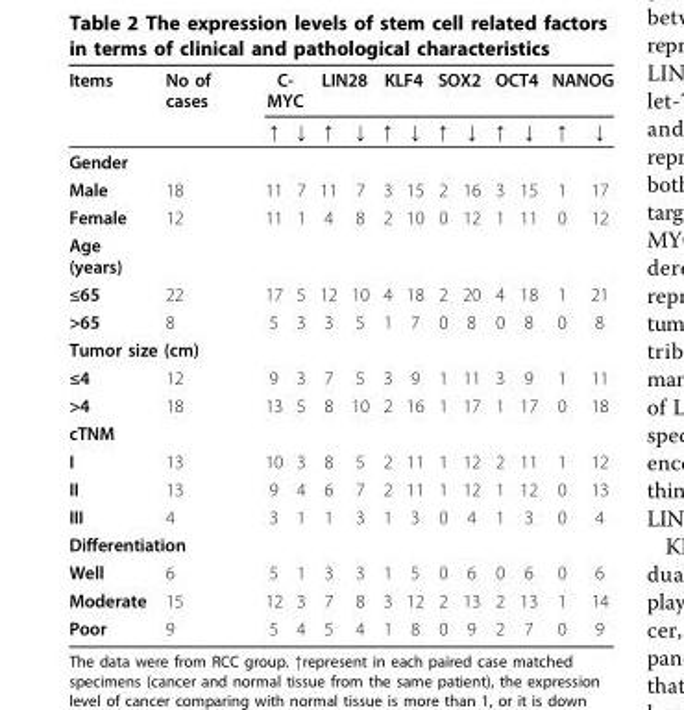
<table><tbody><tr><td rowspan="2">Items</td><td>No of cases</td><td colspan="2">C- MYC</td><td colspan="2">LIN28</td><td colspan="2">KLF4</td><td colspan="2">SOX2</td><td colspan="2">OCT4</td><td colspan="2">NANOG</td></tr><tr><td></td><td>↑</td><td>↓</td><td>↑</td><td>↓</td><td>↑</td><td>↓</td><td>↑</td><td>↓</td><td>↑</td><td>↓</td><td>↑</td><td>↓</td></tr><tr><td colspan="14">Gender</td></tr><tr><td>Male</td><td>18</td><td>11</td><td>7</td><td>11</td><td>7</td><td>3</td><td>15</td><td>2</td><td>16</td><td>3</td><td>15</td><td>1</td><td>17</td></tr><tr><td>Female</td><td>12</td><td>11</td><td>1</td><td>4</td><td>8</td><td>2</td><td>10</td><td>0</td><td>12</td><td>1</td><td>11</td><td>0</td><td>12</td></tr><tr><td colspan="14">Age (years)</td></tr><tr><td>≤65</td><td>22</td><td>17</td><td>5</td><td>12</td><td>10</td><td>4</td><td>18</td><td>2</td><td>20</td><td>4</td><td>18</td><td>1</td><td>21</td></tr><tr><td>&gt;65</td><td>8</td><td>5</td><td>3</td><td>3</td><td>5</td><td>1</td><td>7</td><td>0</td><td>8</td><td>0</td><td>8</td><td>0</td><td>8</td></tr><tr><td colspan="14">Tumor size (cm)</td></tr><tr><td>≤4</td><td>12</td><td>9</td><td>3</td><td>7</td><td>5</td><td>3</td><td>9</td><td>1</td><td>11</td><td>3</td><td>9</td><td>1</td><td>11</td></tr><tr><td>&gt;4</td><td>18</td><td>13</td><td>5</td><td>8</td><td>10</td><td>2</td><td>16</td><td>1</td><td>17</td><td>1</td><td>17</td><td>0</td><td>18</td></tr><tr><td colspan="14">cTNM</td></tr><tr><td>I</td><td>13</td><td>10</td><td>3</td><td>8</td><td>5</td><td>2</td><td>11</td><td>1</td><td>12</td><td>2</td><td>11</td><td>1</td><td>12</td></tr><tr><td>II</td><td>13</td><td>9</td><td>4</td><td>6</td><td>7</td><td>2</td><td>11</td><td>1</td><td>12</td><td>1</td><td>12</td><td>0</td><td>13</td></tr><tr><td>III</td><td>4</td><td>3</td><td>1</td><td>1</td><td>3</td><td>1</td><td>3</td><td>0</td><td>4</td><td>1</td><td>3</td><td>0</td><td>4</td></tr><tr><td colspan="14">Differentiation</td></tr><tr><td>Well</td><td>6</td><td>5</td><td>1</td><td>3</td><td>3</td><td>1</td><td>5</td><td>0</td><td>6</td><td>0</td><td>6</td><td>0</td><td>6</td></tr><tr><td>Moderate</td><td>15</td><td>12</td><td>3</td><td>7</td><td>8</td><td>3</td><td>12</td><td>2</td><td>13</td><td>2</td><td>13</td><td>1</td><td>14</td></tr><tr><td>Poor</td><td>9</td><td>5</td><td>4</td><td>5</td><td>4</td><td>1</td><td>8</td><td>0</td><td>9</td><td>2</td><td>7</td><td>0</td><td>9</td></tr></tbody></table>